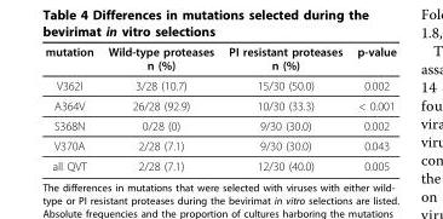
<table><thead><tr><td>mutation</td><td>Wild-type proteases n (%)</td><td>PI resistant proteases n (%)</td><td>p-value</td></tr></thead><tbody><tr><td>V362I</td><td>3/28 (10.7)</td><td>15/30 (50.0)</td><td>0.002</td></tr><tr><td>A364V</td><td>26/28 (92.9)</td><td>10/30 (33.3)</td><td>&lt; 0.001</td></tr><tr><td>S368N</td><td>0/28 (0)</td><td>9/30 (30.0)</td><td>0.002</td></tr><tr><td>V370A</td><td>2/28 (7.1)</td><td>9/30 (30.0)</td><td>0.043</td></tr><tr><td>all QVT</td><td>2/28 (7.1)</td><td>12/30 (40.0)</td><td>0.005</td></tr></tbody></table>